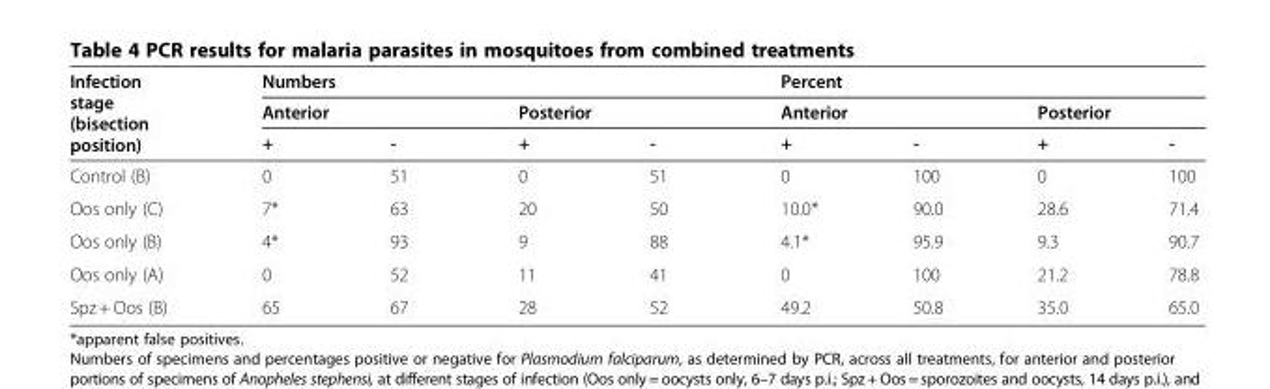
<table><thead><tr><td rowspan="3">Infection stage (bisection position)</td><td colspan="4">Numbers</td><td colspan="4">Percent</td></tr><tr><td colspan="2">Anterior</td><td colspan="2">Posterior</td><td colspan="2">Anterior</td><td colspan="2">Posterior</td></tr><tr><td>+</td><td>-</td><td>+</td><td>-</td><td>+</td><td>-</td><td>+</td><td>-</td></tr></thead><tbody><tr><td>Control (B)</td><td>0</td><td>51</td><td>0</td><td>51</td><td>0</td><td>100</td><td>0</td><td>100</td></tr><tr><td>Oos only (C)</td><td>7*</td><td>63</td><td>20</td><td>50</td><td>10.0*</td><td>90.0</td><td>28.6</td><td>71.4</td></tr><tr><td>Oos only (B)</td><td>4*</td><td>93</td><td>9</td><td>88</td><td>4.1*</td><td>95.9</td><td>9.3</td><td>90.7</td></tr><tr><td>Oos only (A)</td><td>0</td><td>52</td><td>11</td><td>41</td><td>0</td><td>100</td><td>21.2</td><td>78.8</td></tr><tr><td>Spz + Oos (B)</td><td>65</td><td>67</td><td>28</td><td>52</td><td>49.2</td><td>50.8</td><td>35.0</td><td>65.0</td></tr></tbody></table>